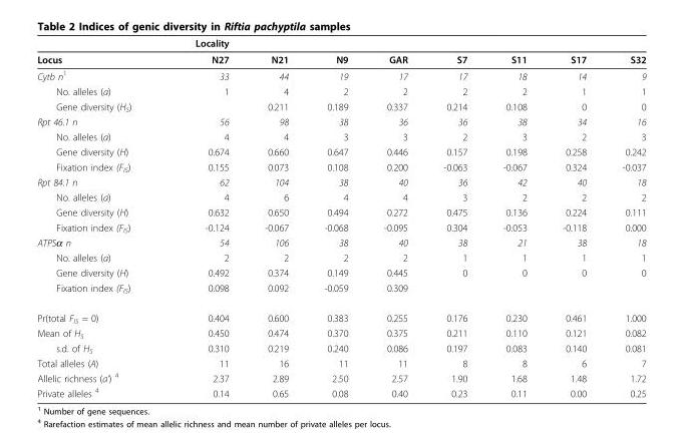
<table><thead><tr><td></td><td>Locality</td><td></td><td></td><td></td><td></td><td></td><td></td><td></td></tr></thead><tbody><tr><td>Locus</td><td>N27</td><td>N21</td><td>N9</td><td>GAR</td><td>S7</td><td>S11</td><td>S17</td><td>S32</td></tr><tr><td>Cytb n<sup>1</sup></td><td>33</td><td>44</td><td>19</td><td>17</td><td>17</td><td>18</td><td>14</td><td>9</td></tr><tr><td>No. alleles (a)</td><td>1</td><td>4</td><td>2</td><td>2</td><td>2</td><td>2</td><td>1</td><td>1</td></tr><tr><td>Gene diversity (H<sub>S</sub>)</td><td></td><td>0.211</td><td>0.189</td><td>0.337</td><td>0.214</td><td>0.108</td><td>0</td><td>0</td></tr><tr><td>Rpt 46.1 n</td><td>56</td><td>98</td><td>38</td><td>36</td><td>36</td><td>38</td><td>34</td><td>16</td></tr><tr><td>No. alleles (a)</td><td>4</td><td>4</td><td>3</td><td>3</td><td>2</td><td>3</td><td>2</td><td>3</td></tr><tr><td>Gene diversity (H)</td><td>0.674</td><td>0.660</td><td>0.647</td><td>0.446</td><td>0.157</td><td>0.198</td><td>0.258</td><td>0.242</td></tr><tr><td>Fixation index (F<sub>IS</sub>)</td><td>0.155</td><td>0.073</td><td>0.108</td><td>0.200</td><td>-0.063</td><td>-0.067</td><td>0.324</td><td>-0.037</td></tr><tr><td>Rpt 84.1 n</td><td>62</td><td>104</td><td>38</td><td>40</td><td>36</td><td>42</td><td>40</td><td>18</td></tr><tr><td>No. alleles (a)</td><td>4</td><td>6</td><td>4</td><td>4</td><td>3</td><td>2</td><td>2</td><td>2</td></tr><tr><td>Gene diversity (H)</td><td>0.632</td><td>0.650</td><td>0.494</td><td>0.272</td><td>0.475</td><td>0.136</td><td>0.224</td><td>0.111</td></tr><tr><td>Fixation index (F<sub>IS</sub>)</td><td>-0.124</td><td>-0.067</td><td>-0.068</td><td>-0.095</td><td>0.304</td><td>-0.053</td><td>-0.118</td><td>0.000</td></tr><tr><td>ATPSα n</td><td>54</td><td>106</td><td>38</td><td>40</td><td>38</td><td>21</td><td>38</td><td>18</td></tr><tr><td>No. alleles (a)</td><td>2</td><td>2</td><td>2</td><td>2</td><td>1</td><td>1</td><td>1</td><td>1</td></tr><tr><td>Gene diversity (H)</td><td>0.492</td><td>0.374</td><td>0.149</td><td>0.445</td><td>0</td><td>0</td><td>0</td><td>0</td></tr><tr><td>Fixation index (F<sub>IS</sub>)</td><td>0.098</td><td>0.092</td><td>-0.059</td><td>0.309</td><td></td><td></td><td></td><td></td></tr><tr><td>Pr(total F<sub>IS</sub> = 0)</td><td>0.404</td><td>0.600</td><td>0.383</td><td>0.255</td><td>0.176</td><td>0.230</td><td>0.461</td><td>1.000</td></tr><tr><td>Mean of H<sub>S</sub></td><td>0.450</td><td>0.474</td><td>0.370</td><td>0.375</td><td>0.211</td><td>0.110</td><td>0.121</td><td>0.082</td></tr><tr><td>s.d. of H<sub>S</sub></td><td>0.310</td><td>0.219</td><td>0.240</td><td>0.086</td><td>0.197</td><td>0.083</td><td>0.140</td><td>0.081</td></tr><tr><td>Total alleles (A)</td><td>11</td><td>16</td><td>11</td><td>11</td><td>8</td><td>8</td><td>6</td><td>7</td></tr><tr><td>Allelic richness (a’) <sup>4</sup></td><td>2.37</td><td>2.89</td><td>2.50</td><td>2.57</td><td>1.90</td><td>1.68</td><td>1.48</td><td>1.72</td></tr><tr><td>Private alleles <sup>4</sup></td><td>0.14</td><td>0.65</td><td>0.08</td><td>0.40</td><td>0.23</td><td>0.11</td><td>0.00</td><td>0.25</td></tr></tbody></table>